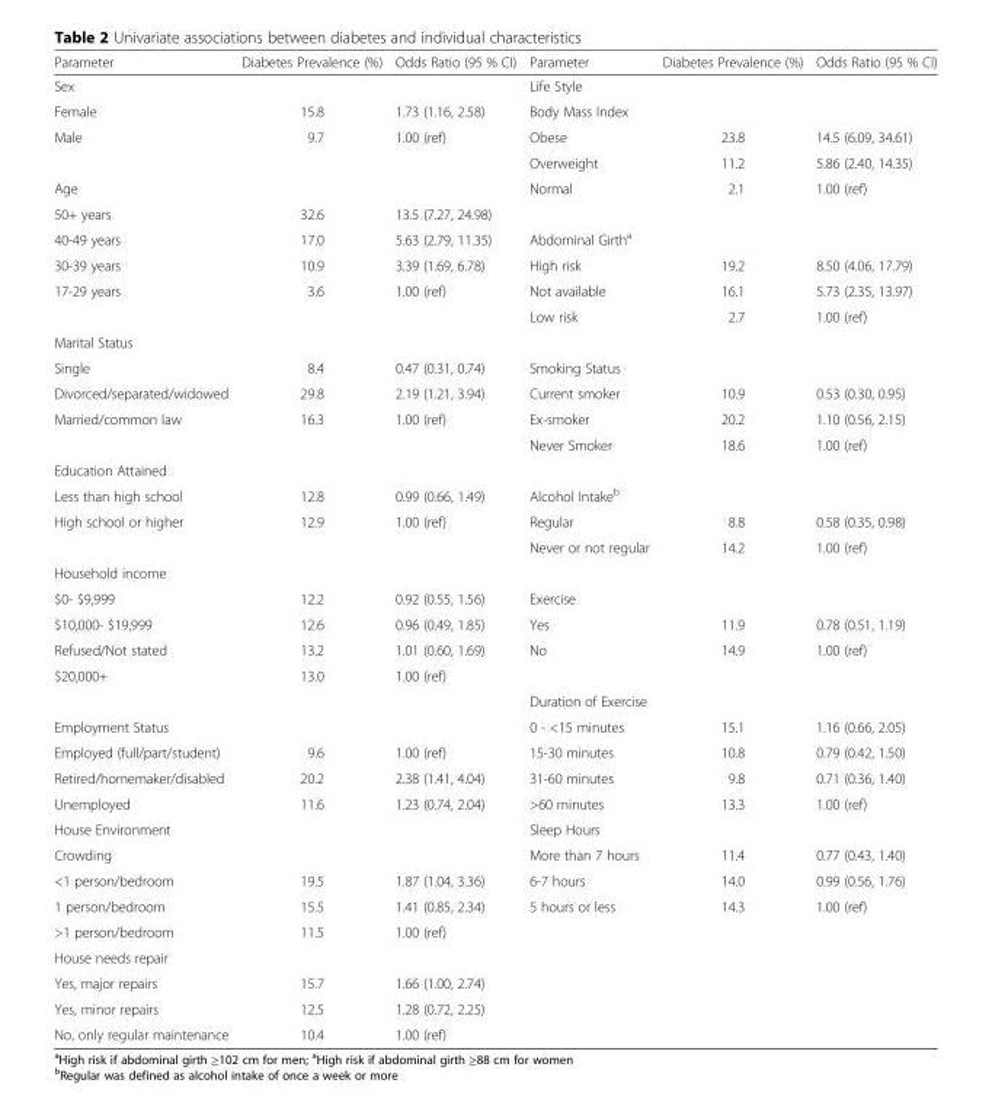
<table><thead><tr><td>Parameter</td><td>Diabetes Prevalence (%)</td><td>Odds Ratio (95 % CI)</td><td>Parameter</td><td>Diabetes Prevalence (%)</td><td>Odds Ratio (95 % CI)</td></tr></thead><tbody><tr><td>Sex</td><td></td><td></td><td>Life Style</td><td></td><td></td></tr><tr><td>Female</td><td>15.8</td><td>1.73 (1.16, 2.58)</td><td>Body Mass Index</td><td></td><td></td></tr><tr><td rowspan="2">Male</td><td>9.7</td><td>1.00 (ref)</td><td>Obese</td><td>23.8</td><td>14.5 (6.09, 34.61)</td></tr><tr><td></td><td></td><td>Overweight</td><td>11.2</td><td>5.86 (2.40, 14.35)</td></tr><tr><td>Age</td><td></td><td></td><td>Normal</td><td>2.1</td><td>1.00 (ref)</td></tr><tr><td>50+ years</td><td>32.6</td><td>13.5 (7.27, 24.98)</td><td></td><td></td><td></td></tr><tr><td>40-49 years</td><td>17.0</td><td>5.63 (2.79, 11.35)</td><td>Abdominal Girth<sup>a</sup></td><td></td><td></td></tr><tr><td>30-39 years</td><td>10.9</td><td>3.39 (1.69, 6.78)</td><td>High risk</td><td>19.2</td><td>8.50 (4.06, 17.79)</td></tr><tr><td rowspan="2">17-29 years</td><td>3.6</td><td>1.00 (ref)</td><td>Not available</td><td>16.1</td><td>5.73 (2.35, 13.97)</td></tr><tr><td></td><td></td><td>Low risk</td><td>2.7</td><td>1.00 (ref)</td></tr><tr><td colspan="6">Marital Status</td></tr><tr><td>Single</td><td>8.4</td><td>0.47 (0.31, 0.74)</td><td>Smoking Status</td><td></td><td></td></tr><tr><td>Divorced/separated/widowed</td><td>29.8</td><td>2.19 (1.21, 3.94)</td><td>Current smoker</td><td>10.9</td><td>0.53 (0.30, 0.95)</td></tr><tr><td rowspan="2">Married/common law</td><td>16.3</td><td>1.00 (ref)</td><td>Ex-smoker</td><td>20.2</td><td>1.10 (0.56, 2.15)</td></tr><tr><td></td><td></td><td>Never Smoker</td><td>18.6</td><td>1.00 (ref)</td></tr><tr><td colspan="6">Education Attained</td></tr><tr><td>Less than high school</td><td>12.8</td><td>0.99 (0.66, 1.49)</td><td>Alcohol Intake<sup>b</sup></td><td></td><td></td></tr><tr><td rowspan="2">High school or higher</td><td>12.9</td><td>1.00 (ref)</td><td>Regular</td><td>8.8</td><td>0.58 (0.35, 0.98)</td></tr><tr><td></td><td></td><td>Never or not regular</td><td>14.2</td><td>1.00 (ref)</td></tr><tr><td colspan="6">Household income</td></tr><tr><td>$0- $9,999</td><td>12.2</td><td>0.92 (0.55, 1.56)</td><td>Exercise</td><td></td><td></td></tr><tr><td>$10,000- $19,999</td><td>12.6</td><td>0.96 (0.49, 1.85)</td><td>Yes</td><td>11.9</td><td>0.78 (0.51, 1.19)</td></tr><tr><td>Refused/Not stated</td><td>13.2</td><td>1.01 (0.60, 1.69)</td><td>No</td><td>14.9</td><td>1.00 (ref)</td></tr><tr><td rowspan="2">$20,000+</td><td>13.0</td><td>1.00 (ref)</td><td></td><td></td><td></td></tr><tr><td></td><td></td><td>Duration of Exercise</td><td></td><td></td></tr><tr><td>Employment Status</td><td></td><td></td><td>0 - &lt;15 minutes</td><td>15.1</td><td>1.16 (0.66, 2.05)</td></tr><tr><td>Employed (full/part/student)</td><td>9.6</td><td>1.00 (ref)</td><td>15-30 minutes</td><td>10.8</td><td>0.79 (0.42, 1.50)</td></tr><tr><td>Retired/homemaker/disabled</td><td>20.2</td><td>2.38 (1.41, 4.04)</td><td>31-60 minutes</td><td>9.8</td><td>0.71 (0.36, 1.40)</td></tr><tr><td>Unemployed</td><td>11.6</td><td>1.23 (0.74, 2.04)</td><td>&gt;60 minutes</td><td>13.3</td><td>1.00 (ref)</td></tr><tr><td>House Environment</td><td></td><td></td><td>Sleep Hours</td><td></td><td></td></tr><tr><td>Crowding</td><td></td><td></td><td>More than 7 hours</td><td>11.4</td><td>0.77 (0.43, 1.40)</td></tr><tr><td>&lt;1 person/bedroom</td><td>19.5</td><td>1.87 (1.04, 3.36)</td><td>6-7 hours</td><td>14.0</td><td>0.99 (0.56, 1.76)</td></tr><tr><td>1 person/bedroom</td><td>15.5</td><td>1.41 (0.85, 2.34)</td><td>5 hours or less</td><td>14.3</td><td>1.00 (ref)</td></tr><tr><td>&gt;1 person/bedroom</td><td>11.5</td><td>1.00 (ref)</td><td></td><td></td><td></td></tr><tr><td colspan="6">House needs repair</td></tr><tr><td>Yes, major repairs</td><td>15.7</td><td>1.66 (1.00, 2.74)</td><td></td><td></td><td></td></tr><tr><td>Yes, minor repairs</td><td>12.5</td><td>1.28 (0.72, 2.25)</td><td></td><td></td><td></td></tr><tr><td>No, only regular maintenance</td><td>10.4</td><td>1.00 (ref)</td><td></td><td></td><td></td></tr></tbody></table>